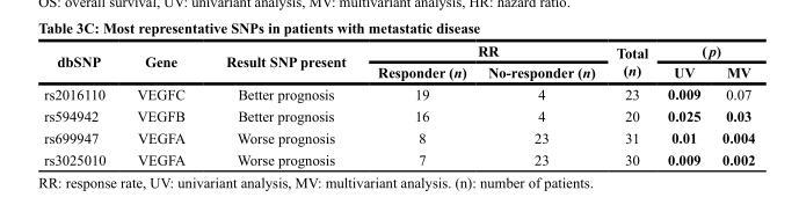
<table><thead><tr><td rowspan="2">dbSNP</td><td rowspan="2">Gene</td><td rowspan="2">Result SNP present</td><td colspan="2">RR</td><td rowspan="2">Total (n)</td><td colspan="2">( p)</td></tr><tr><td>Responder (n)</td><td>No-responder (n)</td><td>UV</td><td>MV</td></tr></thead><tbody><tr><td>rs2016110</td><td>VEGFC</td><td>Better prognosis</td><td>19</td><td>4</td><td>23</td><td>0.009</td><td>0.07</td></tr><tr><td>rs594942</td><td>VEGFB</td><td>Better prognosis</td><td>16</td><td>4</td><td>20</td><td>0.025</td><td>0.03</td></tr><tr><td>rs699947</td><td>VEGFA</td><td>Worse prognosis</td><td>8</td><td>23</td><td>31</td><td>0.01</td><td>0.004</td></tr><tr><td>rs3025010</td><td>VEGFA</td><td>Worse prognosis</td><td>7</td><td>23</td><td>30</td><td>0.009</td><td>0.002</td></tr></tbody></table>